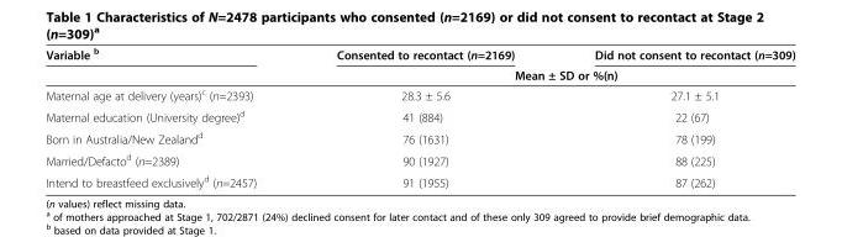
<table><thead><tr><td rowspan="2">Variable <sup>b</sup></td><td>Consented to recontact (n=2169)</td><td>Did not consent to recontact (n=309)</td></tr><tr><td colspan="2">Mean ± SD or %(n)</td></tr></thead><tbody><tr><td>Maternal age at delivery (years)<sup>c</sup> (n=2393)</td><td>28.3 ± 5.6</td><td>27.1 ± 5.1</td></tr><tr><td>Maternal education (University degree)<sup>d</sup></td><td>41 (884)</td><td>22 (67)</td></tr><tr><td>Born in Australia/New Zealand<sup>d</sup></td><td>76 (1631)</td><td>78 (199)</td></tr><tr><td>Married/Defacto<sup>d</sup> (n=2389)</td><td>90 (1927)</td><td>88 (225)</td></tr><tr><td>Intend to breastfeed exclusively<sup>d</sup> (n=2457)</td><td>91 (1955)</td><td>87 (262)</td></tr></tbody></table>